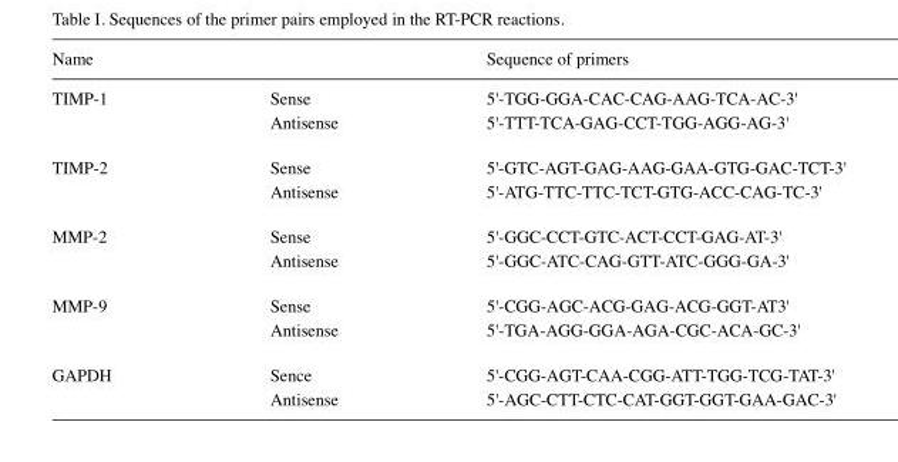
<table><thead><tr><td>Name</td><td></td><td>Sequence of primers</td></tr></thead><tbody><tr><td rowspan="2">TIMP-1</td><td>Sense</td><td>5&#x27;-TGG-GGA-CAC-CAG-AAG-TCA-AC-3&#x27;</td></tr><tr><td>Antisense</td><td>5&#x27;-TTT-TCA-GAG-CCT-TGG-AGG-AG-3&#x27;</td></tr><tr><td rowspan="2">TIMP-2</td><td>Sense</td><td>5&#x27;-GTC-AGT-GAG-AAG-GAA-GTG-GAC-TCT-3&#x27;</td></tr><tr><td>Antisense</td><td>5&#x27;-ATG-TTC-TTC-TCT-GTG-ACC-CAG-TC-3&#x27;</td></tr><tr><td rowspan="2">MMP-2</td><td>Sense</td><td>5&#x27;-GGC-CCT-GTC-ACT-CCT-GAG-AT-3&#x27;</td></tr><tr><td>Antisense</td><td>5&#x27;-GGC-ATC-CAG-GTT-ATC-GGG-GA-3&#x27;</td></tr><tr><td rowspan="2">MMP-9</td><td>Sense</td><td>5&#x27;-CGG-AGC-ACG-GAG-ACG-GGT-AT3&#x27;</td></tr><tr><td>Antisense</td><td>5&#x27;-TGA-AGG-GGA-AGA-CGC-ACA-GC-3&#x27;</td></tr><tr><td rowspan="2">GAPDH</td><td>Sence</td><td>5&#x27;-CGG-AGT-CAA-CGG-ATT-TGG-TCG-TAT-3&#x27;</td></tr><tr><td>Antisense</td><td>5&#x27;-AGC-CTT-CTC-CAT-GGT-GGT-GAA-GAC-3&#x27;</td></tr></tbody></table>